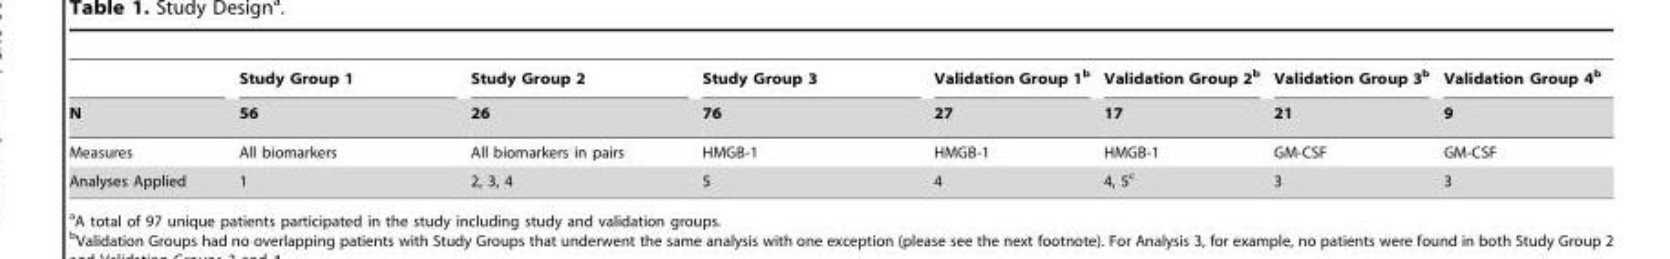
<table><thead><tr><td rowspan="2">N</td><td rowspan="2">Study Group 1 56</td><td rowspan="2">Study Group 2 26</td><td rowspan="2">Study Group 3 76</td><td rowspan="2">Validation Group 1<sup>b</sup> 27</td><td rowspan="2">Validation Group 2<sup>b</sup> 17</td><td rowspan="2">Validation Group 3<sup>b</sup> 21</td><td rowspan="2">Validation Group 4<sup>b</sup> 9</td></tr><tr></tr></thead><tbody><tr><td>Measures</td><td>All biomarkers</td><td>All biomarkers in pairs</td><td>HMGB-1</td><td>HMGB-1</td><td>HMGB-1</td><td>GM-CSF</td><td>GM-CSF</td></tr><tr><td>Analyses Applied</td><td>1</td><td>2, 3, 4</td><td>5</td><td>4</td><td>4, 5<sup>c</sup></td><td>3</td><td>3</td></tr></tbody></table>